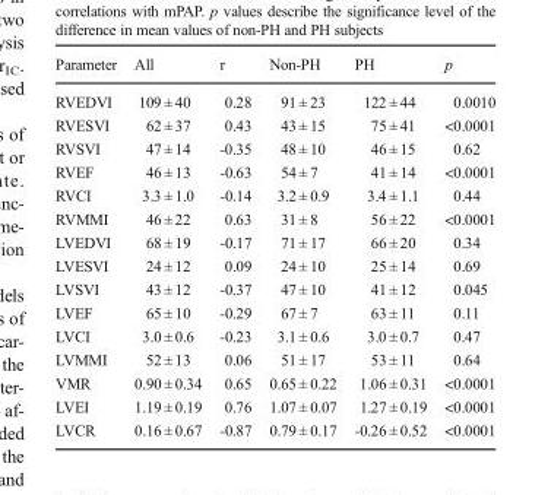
<table><thead><tr><td>Parameter</td><td>All</td><td>r</td><td>Non-PH</td><td>PH</td><td>p</td></tr></thead><tbody><tr><td>RVEDVI</td><td>109 ± 40</td><td>0.28</td><td>91 ± 23</td><td>122 ± 44</td><td>0.0010</td></tr><tr><td>RVESVI</td><td>62 ± 37</td><td>0.43</td><td>43 ± 15</td><td>75 ± 41</td><td>&lt;0.0001</td></tr><tr><td>RVSVI</td><td>47 ± 14</td><td>-0.35</td><td>48 ± 10</td><td>46 ± 15</td><td>0.62</td></tr><tr><td>RVEF</td><td>46 ± 13</td><td>-0.63</td><td>54 ± 7</td><td>41 ± 14</td><td>&lt;0.0001</td></tr><tr><td>RVCI</td><td>3.3 ± 1.0</td><td>-0.14</td><td>3.2 ± 0.9</td><td>3.4 ± 1.1</td><td>0.44</td></tr><tr><td>RVMMI</td><td>46 ± 22</td><td>0.63</td><td>31 ± 8</td><td>56 ± 22</td><td>&lt;0.0001</td></tr><tr><td>LVEDVI</td><td>68 ± 19</td><td>-0.17</td><td>71 ± 17</td><td>66 ± 20</td><td>0.34</td></tr><tr><td>LVESVI</td><td>24 ± 12</td><td>0.09</td><td>24 ± 10</td><td>25 ± 14</td><td>0.69</td></tr><tr><td>LVSVI</td><td>43 ± 12</td><td>-0.37</td><td>47 ± 10</td><td>41 ± 12</td><td>0.045</td></tr><tr><td>LVEF</td><td>65 ± 10</td><td>-0.29</td><td>67 ± 7</td><td>63 ± 11</td><td>0.11</td></tr><tr><td>LVCI</td><td>3.0 ± 0.6</td><td>-0.23</td><td>3.1 ± 0.6</td><td>3.0 ± 0.7</td><td>0.47</td></tr><tr><td>LVMMI</td><td>52 ± 13</td><td>0.06</td><td>51 ± 17</td><td>53 ± 11</td><td>0.64</td></tr><tr><td>VMR</td><td>0.90 ± 0.34</td><td>0.65</td><td>0.65 ± 0.22</td><td>1.06 ± 0.31</td><td>&lt;0.0001</td></tr><tr><td>LVEI</td><td>1.19 ± 0.19</td><td>0.76</td><td>1.07 ± 0.07</td><td>1.27 ± 0.19</td><td>&lt;0.0001</td></tr><tr><td>LVCR</td><td>0.16 ± 0.67</td><td>-0.87</td><td>0.79 ± 0.17</td><td>-0.26 ± 0.52</td><td>&lt;0.0001</td></tr></tbody></table>